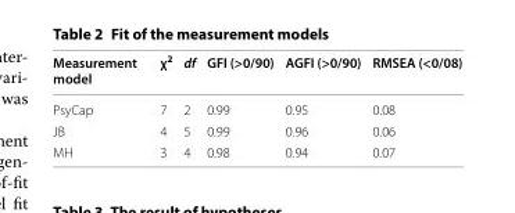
<table><thead><tr><td>Measurement model</td><td>χ<sup>2</sup></td><td>df</td><td>GFI (&gt;0/90)</td><td>AGFI (&gt;0/90)</td><td>RMSEA (&lt;0/08)</td></tr></thead><tbody><tr><td>PsyCap</td><td>7</td><td>2</td><td>0.99</td><td>0.95</td><td>0.08</td></tr><tr><td>JB</td><td>4</td><td>5</td><td>0.99</td><td>0.96</td><td>0.06</td></tr><tr><td>MH</td><td>3</td><td>4</td><td>0.98</td><td>0.94</td><td>0.07</td></tr></tbody></table>